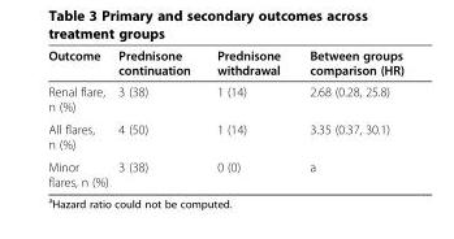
<table><thead><tr><td>Outcome</td><td>Prednisone continuation</td><td>Prednisone withdrawal</td><td>Between groups comparison (HR)</td></tr></thead><tbody><tr><td>Renal flare, n (%)</td><td>3 (38)</td><td>1 (14)</td><td>2.68 (0.28, 25.8)</td></tr><tr><td>All flares, n (%)</td><td>4 (50)</td><td>1 (14)</td><td>3.35 (0.37, 30.1)</td></tr><tr><td>Minor flares, n (%)</td><td>3 (38)</td><td>0 (0)</td><td>a</td></tr></tbody></table>